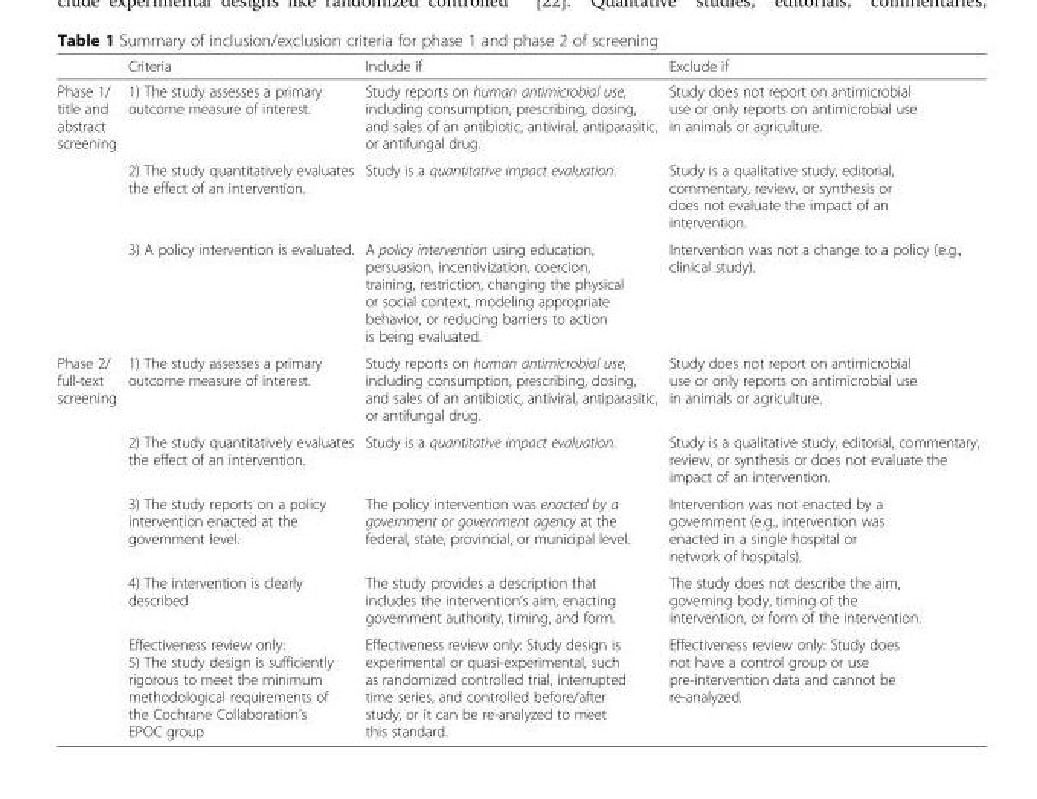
<table><thead><tr><td></td><td>Criteria</td><td>Include if</td><td>Exclude if</td></tr></thead><tbody><tr><td rowspan="3">Phase 1/ title and abstract screening</td><td>1) The study assesses a primary outcome measure of interest.</td><td>Study reports on human antimicrobial use, including consumption, prescribing, dosing, and sales of an antibiotic, antiviral, antiparasitic, or antifungal drug.</td><td>Study does not report on antimicrobial use or only reports on antimicrobial use in animals or agriculture.</td></tr><tr><td>2) The study quantitatively evaluates the effect of an intervention.</td><td>Study is a quantitative impact evaluation.</td><td>Study is a qualitative study, editorial, commentary, review, or synthesis or does not evaluate the impact of an intervention.</td></tr><tr><td>3) A policy intervention is evaluated.</td><td>A policy intervention using education, persuasion, incentivization, coercion, training, restriction, changing the physical or social context, modeling appropriate behavior, or reducing barriers to action is being evaluated.</td><td>Intervention was not a change to a policy (e.g., clinical study).</td></tr><tr><td rowspan="5">Phase 2/ full-text screening</td><td>1) The study assesses a primary outcome measure of interest.</td><td>Study reports on human antimicrobial use, including consumption, prescribing, dosing, and sales of an antibiotic, antiviral, antiparasitic, or antifungal drug.</td><td>Study does not report on antimicrobial use or only reports on antimicrobial use in animals or agriculture.</td></tr><tr><td>2) The study quantitatively evaluates the effect of an intervention.</td><td>Study is a quantitative impact evaluation.</td><td>Study is a qualitative study, editorial, commentary, review, or synthesis or does not evaluate the impact of an intervention.</td></tr><tr><td>3) The study reports on a policy intervention enacted at the government level.</td><td>The policy intervention was enacted by a government or government agency at the federal, state, provincial, or municipal level.</td><td>Intervention was not enacted by a government (e.g., intervention was enacted in a single hospital or network of hospitals).</td></tr><tr><td>4) The intervention is clearly described</td><td>The study provides a description that includes the intervention’s aim, enacting government authority, timing, and form.</td><td>The study does not describe the aim, governing body, timing of the intervention, or form of the intervention.</td></tr><tr><td>Effectiveness review only: 5) The study design is sufficiently rigorous to meet the minimum methodological requirements of the Cochrane Collaboration’s EPOC group</td><td>Effectiveness review only: Study design is experimental or quasi-experimental, such as randomized controlled trial, interrupted time series, and controlled before/after study, or it can be re-analyzed to meet this standard.</td><td>Effectiveness review only: Study does not have a control group or use pre-intervention data and cannot be re-analyzed.</td></tr></tbody></table>